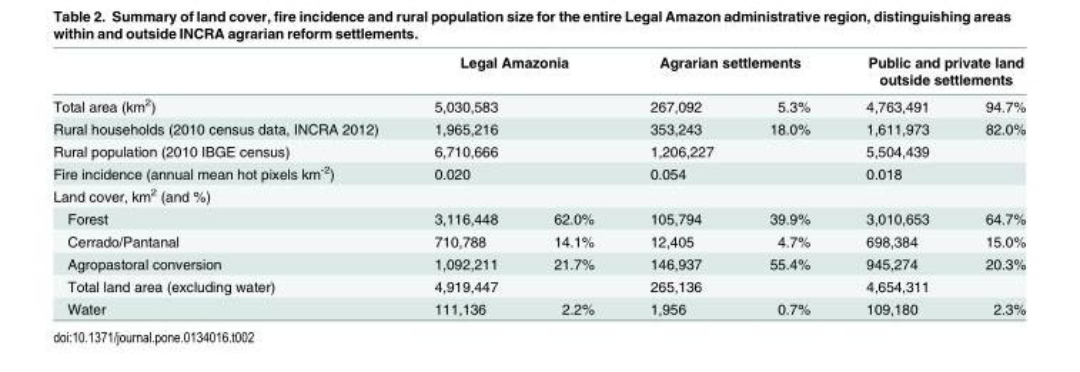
<table><thead><tr><td rowspan="2">Total area (km<sup>2</sup>)</td><td colspan="2">Legal Amazonia</td><td colspan="2">Agrarian settlements</td><td colspan="2">Public and private land outside settlements</td></tr><tr><td>5,030,583</td><td></td><td>267,092</td><td>5.3%</td><td>4,763,491</td><td>94.7%</td></tr></thead><tbody><tr><td>Rural households (2010 census data, INCRA 2012)</td><td>1,965,216</td><td></td><td>353,243</td><td>18.0%</td><td>1,611,973</td><td>82.0%</td></tr><tr><td>Rural population (2010 IBGE census)</td><td>6,710,666</td><td></td><td>1,206,227</td><td></td><td>5,504,439</td><td></td></tr><tr><td>Fire incidence (annual mean hot pixels km<sup>-2</sup>)</td><td>0.020</td><td></td><td>0.054</td><td></td><td>0.018</td><td></td></tr><tr><td colspan="7">Land cover, km<sup>2</sup> (and %)</td></tr><tr><td>Forest</td><td>3,116,448</td><td>62.0%</td><td>105,794</td><td>39.9%</td><td>3,010,653</td><td>64.7%</td></tr><tr><td>Cerrado/Pantanal</td><td>710,788</td><td>14.1%</td><td>12,405</td><td>4.7%</td><td>698,384</td><td>15.0%</td></tr><tr><td>Agropastoral conversion</td><td>1,092,211</td><td>21.7%</td><td>146,937</td><td>55.4%</td><td>945,274</td><td>20.3%</td></tr><tr><td>Total land area (excluding water)</td><td>4,919,447</td><td></td><td>265,136</td><td></td><td>4,654,311</td><td></td></tr><tr><td>Water</td><td>111,136</td><td>2.2%</td><td>1,956</td><td>0.7%</td><td>109,180</td><td>2.3%</td></tr></tbody></table>